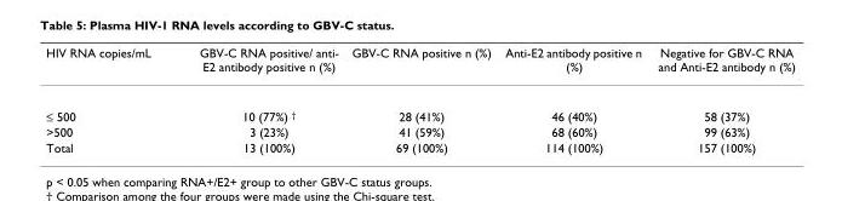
<table><thead><tr><td>HIV RNA copies/mL</td><td>GBV-C RNA positive/ anti- E2 antibody positive n (%)</td><td>GBV-C RNA positive n (%)</td><td>Anti-E2 antibody positive n (%)</td><td>Negative for GBV-C RNA and Anti-E2 antibody n (%)</td></tr></thead><tbody><tr><td>≤ 500</td><td>10 (77%) <sup>†</sup></td><td>28 (41%)</td><td>46 (40%)</td><td>58 (37%)</td></tr><tr><td>&gt;500</td><td>3 (23%)</td><td>41 (59%)</td><td>68 (60%)</td><td>99 (63%)</td></tr><tr><td>Total</td><td>13 (100%)</td><td>69 (100%)</td><td>114 (100%)</td><td>157 (100%)</td></tr></tbody></table>